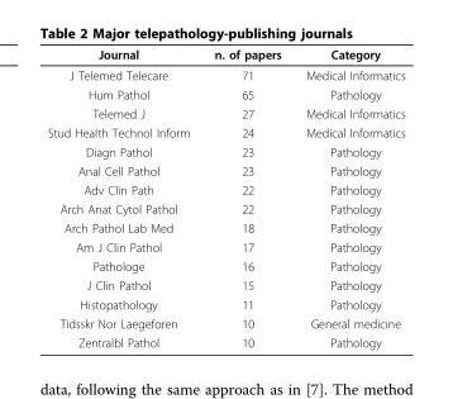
<table><thead><tr><td>Journal</td><td>n. of papers</td><td>Category</td></tr></thead><tbody><tr><td>J Telemed Telecare</td><td>71</td><td>Medical Informatics</td></tr><tr><td>Hum Pathol</td><td>65</td><td>Pathology</td></tr><tr><td>Telemed J</td><td>27</td><td>Medical Informatics</td></tr><tr><td>Stud Health Technol Inform</td><td>24</td><td>Medical Informatics</td></tr><tr><td>Diagn Pathol</td><td>23</td><td>Pathology</td></tr><tr><td>Anal Cell Pathol</td><td>23</td><td>Pathology</td></tr><tr><td>Adv Clin Path</td><td>22</td><td>Pathology</td></tr><tr><td>Arch Anat Cytol Pathol</td><td>22</td><td>Pathology</td></tr><tr><td>Arch Pathol Lab Med</td><td>18</td><td>Pathology</td></tr><tr><td>Am J Clin Pathol</td><td>17</td><td>Pathology</td></tr><tr><td>Pathologe</td><td>16</td><td>Pathology</td></tr><tr><td>J Clin Pathol</td><td>15</td><td>Pathology</td></tr><tr><td>Histopathology</td><td>11</td><td>Pathology</td></tr><tr><td>Tidsskr Nor Laegeforen</td><td>10</td><td>General medicine</td></tr><tr><td>Zentralbl Pathol</td><td>10</td><td>Pathology</td></tr></tbody></table>